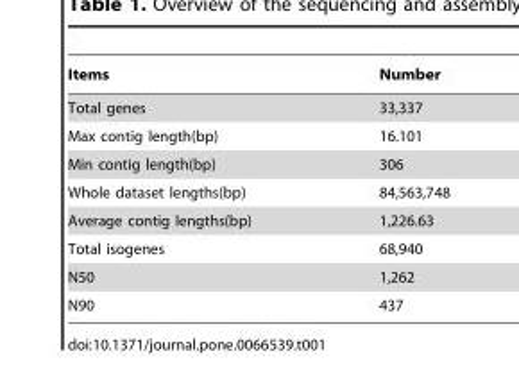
<table><thead><tr><td>Items</td><td>Number</td></tr></thead><tbody><tr><td>Total genes</td><td>33,337</td></tr><tr><td>Max contig length(bp)</td><td>16.101</td></tr><tr><td>Min contig length(bp)</td><td>306</td></tr><tr><td>Whole dataset lengths(bp)</td><td>84,563,748</td></tr><tr><td>Average contig lengths(bp)</td><td>1,226.63</td></tr><tr><td>Total isogenes</td><td>68,940</td></tr><tr><td>N50</td><td>1,262</td></tr><tr><td>N90</td><td>437</td></tr></tbody></table>